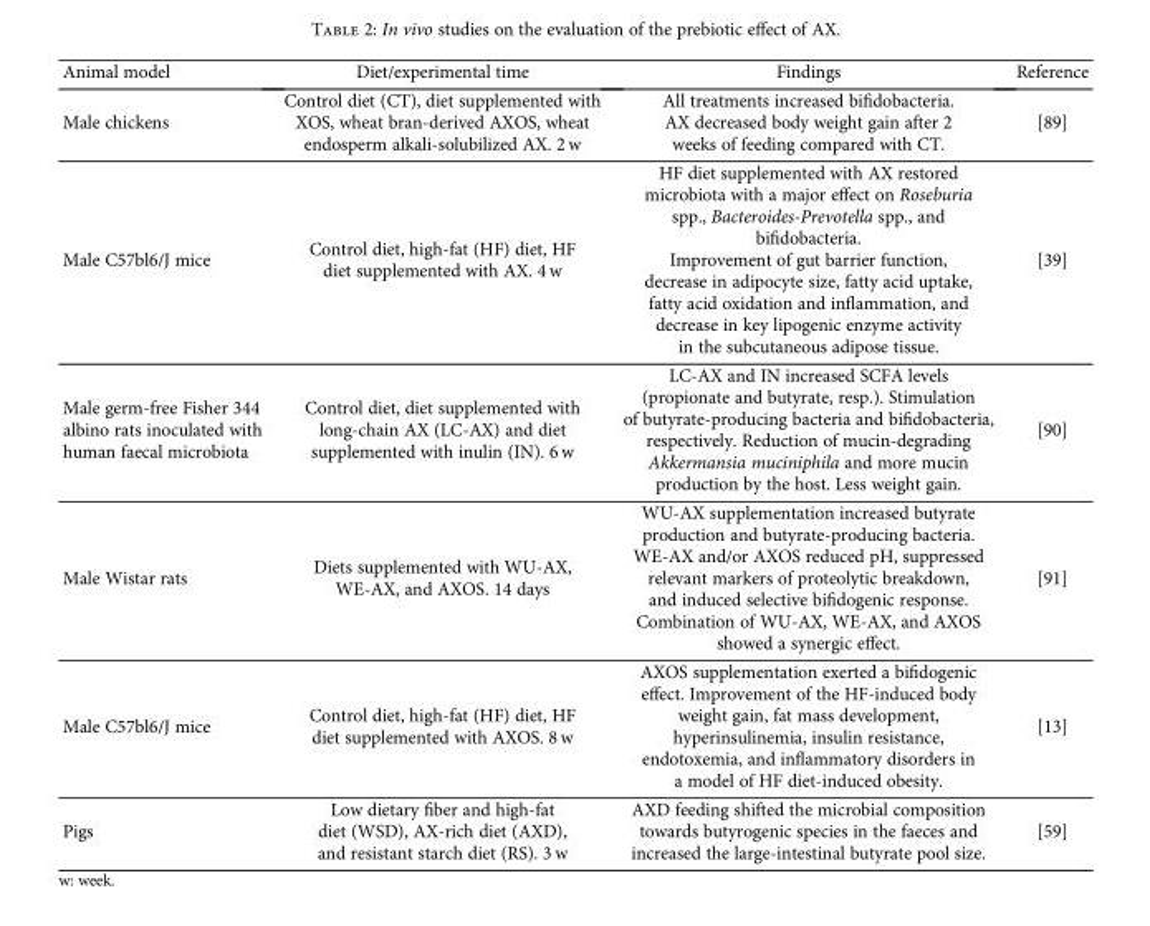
<table><thead><tr><td>Animal model</td><td>Diet/experimental time</td><td>Findings</td><td>Reference</td></tr></thead><tbody><tr><td>Male chickens</td><td>Control diet (CT), diet supplemented with XOS, wheat bran-derived AXOS, wheat endosperm alkali-solubilized AX. 2 w</td><td>All treatments increased bifidobacteria. AX decreased body weight gain after 2 weeks of feeding compared with CT.</td><td>[89]</td></tr><tr><td>Male C57bl6/J mice</td><td>Control diet, high-fat (HF) diet, HF diet supplemented with AX. 4 w</td><td>HF diet supplemented with AX restored microbiota with a major effect on Roseburia spp., Bacteroides-Prevotella spp., and bifidobacteria. Improvement of gut barrier function, decrease in adipocyte size, fatty acid uptake, fatty acid oxidation and inflammation, and decrease in key lipogenic enzyme activity in the subcutaneous adipose tissue.</td><td>[39]</td></tr><tr><td>Male germ-free Fisher 344 albino rats inoculated with human faecal microbiota</td><td>Control diet, diet supplemented with long-chain AX (LC-AX) and diet supplemented with inulin (IN). 6 w</td><td>LC-AX and IN increased SCFA levels (propionate and butyrate, resp.). Stimulation of butyrate-producing bacteria and bifidobacteria, respectively. Reduction of mucin-degrading Akkermansia muciniphila and more mucin production by the host. Less weight gain.</td><td>[90]</td></tr><tr><td>Male Wistar rats</td><td>Diets supplemented with WU-AX, WE-AX, and AXOS. 14 days</td><td>WU-AX supplementation increased butyrate production and butyrate-producing bacteria. WE-AX and/or AXOS reduced pH, suppressed relevant markers of proteolytic breakdown, and induced selective bifidogenic response. Combination of WU-AX, WE-AX, and AXOS showed a synergic effect.</td><td>[91]</td></tr><tr><td>Male C57bl6/J mice</td><td>Control diet, high-fat (HF) diet, HF diet supplemented with AXOS. 8 w</td><td>AXOS supplementation exerted a bifidogenic effect. Improvement of the HF-induced body weight gain, fat mass development, hyperinsulinemia, insulin resistance, endotoxemia, and inflammatory disorders in a model of HF diet-induced obesity.</td><td>[13]</td></tr><tr><td>Pigs</td><td>Low dietary fiber and high-fat diet (WSD), AX-rich diet (AXD), and resistant starch diet (RS). 3 w</td><td>AXD feeding shifted the microbial composition towards butyrogenic species in the faeces and increased the large-intestinal butyrate pool size.</td><td>[59]</td></tr></tbody></table>